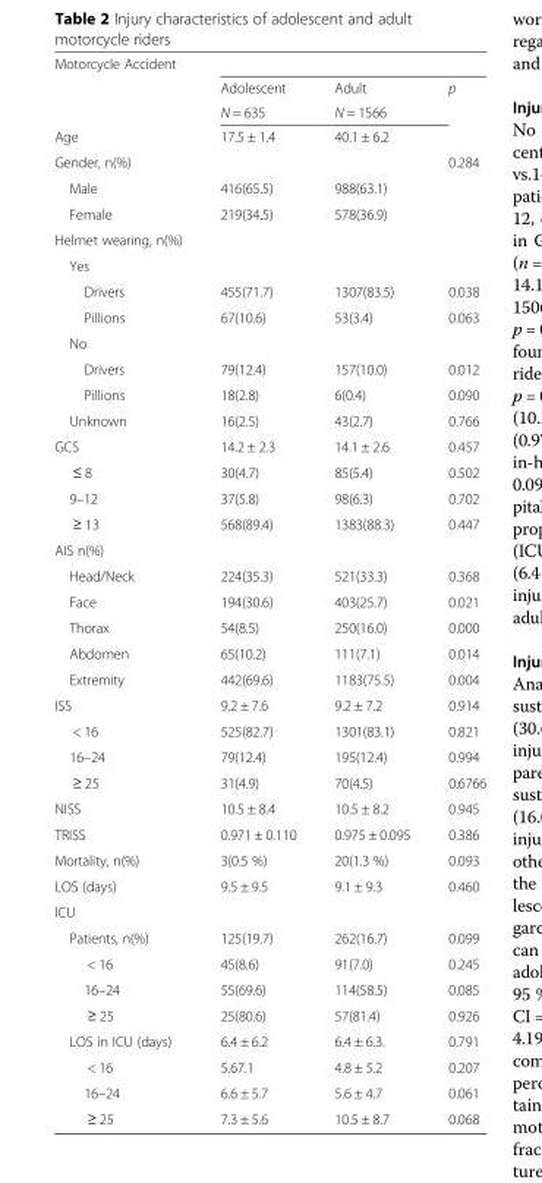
<table><thead><tr><td rowspan="3">Motorcycle Accident</td><td rowspan="3">Adolescent N = 635</td><td rowspan="3">Adult N = 1566</td><td rowspan="3">p</td></tr><tr></tr><tr></tr></thead><tbody><tr><td>Age</td><td>17.5 ± 1.4</td><td>40.1 ± 6.2</td><td></td></tr><tr><td>Gender, n(%)</td><td></td><td></td><td>0.284</td></tr><tr><td>Male</td><td>416(65.5)</td><td>988(63.1)</td><td></td></tr><tr><td>Female</td><td>219(34.5)</td><td>578(36.9)</td><td></td></tr><tr><td colspan="4">Helmet wearing, n(%)</td></tr><tr><td colspan="4">Yes</td></tr><tr><td>Drivers</td><td>455(71.7)</td><td>1307(83.5)</td><td>0.038</td></tr><tr><td>Pillions</td><td>67(10.6)</td><td>53(3.4)</td><td>0.063</td></tr><tr><td colspan="4">No</td></tr><tr><td>Drivers</td><td>79(12.4)</td><td>157(10.0)</td><td>0.012</td></tr><tr><td>Pillions</td><td>18(2.8)</td><td>6(0.4)</td><td>0.090</td></tr><tr><td>Unknown</td><td>16(2.5)</td><td>43(2.7)</td><td>0.766</td></tr><tr><td>GCS</td><td>14.2 ± 2.3</td><td>14.1 ± 2.6</td><td>0.457</td></tr><tr><td>≤ 8</td><td>30(4.7)</td><td>85(5.4)</td><td>0.502</td></tr><tr><td>9–12</td><td>37(5.8)</td><td>98(6.3)</td><td>0.702</td></tr><tr><td>≥ 13</td><td>568(89.4)</td><td>1383(88.3)</td><td>0.447</td></tr><tr><td colspan="4">AIS n(%)</td></tr><tr><td>Head/Neck</td><td>224(35.3)</td><td>521(33.3)</td><td>0.368</td></tr><tr><td>Face</td><td>194(30.6)</td><td>403(25.7)</td><td>0.021</td></tr><tr><td>Thorax</td><td>54(8.5)</td><td>250(16.0)</td><td>0.000</td></tr><tr><td>Abdomen</td><td>65(10.2)</td><td>111(7.1)</td><td>0.014</td></tr><tr><td>Extremity</td><td>442(69.6)</td><td>1183(75.5)</td><td>0.004</td></tr><tr><td>ISS</td><td>9.2 ± 7.6</td><td>9.2 ± 7.2</td><td>0.914</td></tr><tr><td>&lt; 16</td><td>525(82.7)</td><td>1301(83.1)</td><td>0.821</td></tr><tr><td>16–24</td><td>79(12.4)</td><td>195(12.4)</td><td>0.994</td></tr><tr><td>≥ 25</td><td>31(4.9)</td><td>70(4.5)</td><td>0.6766</td></tr><tr><td>NISS</td><td>10.5 ± 8.4</td><td>10.5 ± 8.2</td><td>0.945</td></tr><tr><td>TRISS</td><td>0.971 ± 0.110</td><td>0.975 ± 0.095</td><td>0.386</td></tr><tr><td>Mortality, n(%)</td><td>3(0.5 %)</td><td>20(1.3 %)</td><td>0.093</td></tr><tr><td>LOS (days)</td><td>9.5 ± 9.5</td><td>9.1 ± 9.3</td><td>0.460</td></tr><tr><td colspan="4">ICU</td></tr><tr><td>Patients, n(%)</td><td>125(19.7)</td><td>262(16.7)</td><td>0.099</td></tr><tr><td>&lt; 16</td><td>45(8.6)</td><td>91(7.0)</td><td>0.245</td></tr><tr><td>16–24</td><td>55(69.6)</td><td>114(58.5)</td><td>0.085</td></tr><tr><td>≥ 25</td><td>25(80.6)</td><td>57(81.4)</td><td>0.926</td></tr><tr><td>LOS in ICU (days)</td><td>6.4 ± 6.2</td><td>6.4 ± 6.3.</td><td>0.791</td></tr><tr><td>&lt; 16</td><td>5.67.1</td><td>4.8 ± 5.2</td><td>0.207</td></tr><tr><td>16–24</td><td>6.6 ± 5.7</td><td>5.6 ± 4.7</td><td>0.061</td></tr><tr><td>≥ 25</td><td>7.3 ± 5.6</td><td>10.5 ± 8.7</td><td>0.068</td></tr></tbody></table>